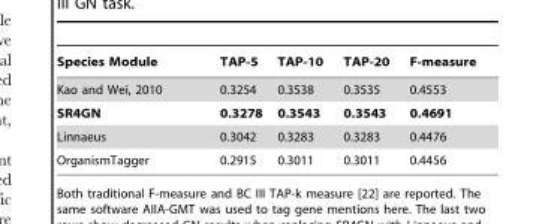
<table><thead><tr><td>Species Module</td><td>TAP-5</td><td>TAP-10</td><td>TAP-20</td><td>F-measure</td></tr></thead><tbody><tr><td>Kao and Wei, 2010</td><td>0.3254</td><td>0.3538</td><td>0.3535</td><td>0.4553</td></tr><tr><td>SR4GN</td><td>0.3278</td><td>0.3543</td><td>0.3543</td><td>0.4691</td></tr><tr><td>Linnaeus</td><td>0.3042</td><td>0.3283</td><td>0.3283</td><td>0.4476</td></tr><tr><td>OrganismTagger</td><td>0.2915</td><td>0.3011</td><td>0.3011</td><td>0.4456</td></tr></tbody></table>